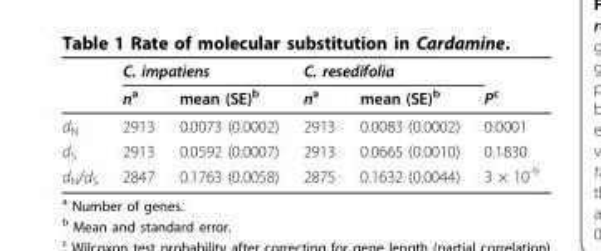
<table><thead><tr><td rowspan="2"></td><td colspan="2">C. impatiens</td><td colspan="2">C. resedifolia</td><td rowspan="2">P<sup>c</sup></td></tr><tr><td>n<sup>a</sup></td><td>mean (SE)<sup>b</sup></td><td>n<sup>a</sup></td><td>mean (SE)<sup>b</sup></td></tr></thead><tbody><tr><td>d<sub>N</sub></td><td>2913</td><td>0.0073 (0.0002)</td><td>2913</td><td>0.0083 (0.0002)</td><td>0.0001</td></tr><tr><td>d<sub>S</sub></td><td>2913</td><td>0.0592 (0.0007)</td><td>2913</td><td>0.0665 (0.0010)</td><td>0.1830</td></tr><tr><td>d<sub>N</sub>/d<sub>S</sub></td><td>2847</td><td>0.1763 (0.0058)</td><td>2875</td><td>0.1632 (0.0044)</td><td>3 × 10<sup>-9</sup></td></tr></tbody></table>